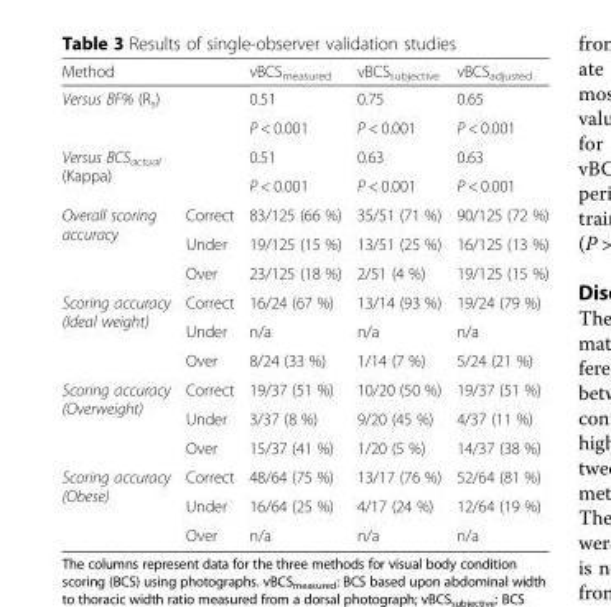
<table><thead><tr><td>Method</td><td></td><td>vBCS<sub>measured</sub></td><td>vBCS<sub>subjective</sub></td><td>vBCS<sub>adjusted</sub></td></tr></thead><tbody><tr><td rowspan="2">Versus BF% (R<sub>s</sub>)</td><td rowspan="2"></td><td>0.51</td><td>0.75</td><td>0.65</td></tr><tr><td>P &lt; 0.001</td><td>P &lt; 0.001</td><td>P &lt; 0.001</td></tr><tr><td rowspan="2">Versus BCS<sub>actual</sub> (Kappa)</td><td rowspan="2"></td><td>0.51</td><td>0.63</td><td>0.63</td></tr><tr><td>P &lt; 0.001</td><td>P &lt; 0.001</td><td>P &lt; 0.001</td></tr><tr><td rowspan="3">Overall scoring accuracy</td><td>Correct</td><td>83/125 (66 %)</td><td>35/51 (71 %)</td><td>90/125 (72 %)</td></tr><tr><td>Under</td><td>19/125 (15 %)</td><td>13/51 (25 %)</td><td>16/125 (13 %)</td></tr><tr><td>Over</td><td>23/125 (18 %)</td><td>2/51 (4 %)</td><td>19/125 (15 %)</td></tr><tr><td rowspan="3">Scoring accuracy (Ideal weight)</td><td>Correct</td><td>16/24 (67 %)</td><td>13/14 (93 %)</td><td>19/24 (79 %)</td></tr><tr><td>Under</td><td>n/a</td><td>n/a</td><td>n/a</td></tr><tr><td>Over</td><td>8/24 (33 %)</td><td>1/14 (7 %)</td><td>5/24 (21 %)</td></tr><tr><td rowspan="3">Scoring accuracy (Overweight)</td><td>Correct</td><td>19/37 (51 %)</td><td>10/20 (50 %)</td><td>19/37 (51 %)</td></tr><tr><td>Under</td><td>3/37 (8 %)</td><td>9/20 (45 %)</td><td>4/37 (11 %)</td></tr><tr><td>Over</td><td>15/37 (41 %)</td><td>1/20 (5 %)</td><td>14/37 (38 %)</td></tr><tr><td rowspan="3">Scoring accuracy (Obese)</td><td>Correct</td><td>48/64 (75 %)</td><td>13/17 (76 %)</td><td>52/64 (81 %)</td></tr><tr><td>Under</td><td>16/64 (25 %)</td><td>4/17 (24 %)</td><td>12/64 (19 %)</td></tr><tr><td>Over</td><td>n/a</td><td>n/a</td><td>n/a</td></tr></tbody></table>